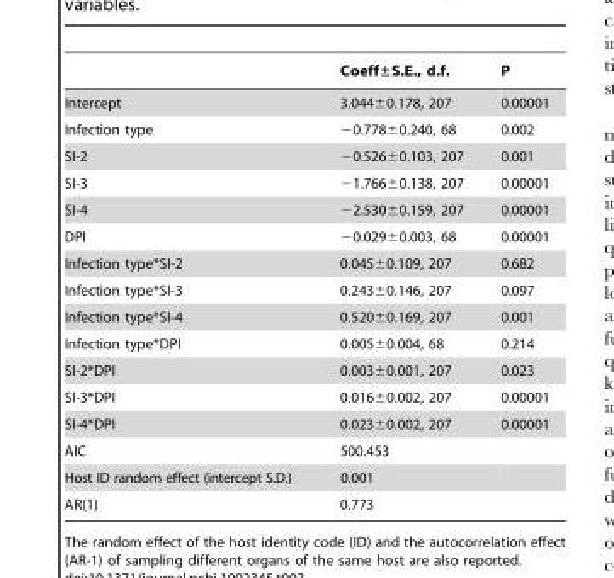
<table><thead><tr><td></td><td>Coeff±S.E., d.f.</td><td>P</td></tr></thead><tbody><tr><td>Intercept</td><td>3.044±0.178, 207</td><td>0.00001</td></tr><tr><td>Infection type</td><td>−0.778±0.240, 68</td><td>0.002</td></tr><tr><td>SI-2</td><td>−0.526±0.103, 207</td><td>0.001</td></tr><tr><td>SI-3</td><td>−1.766±0.138, 207</td><td>0.00001</td></tr><tr><td>SI-4</td><td>−2.530±0.159, 207</td><td>0.00001</td></tr><tr><td>DPI</td><td>−0.029±0.003, 68</td><td>0.00001</td></tr><tr><td>Infection type*SI-2</td><td>0.045±0.109, 207</td><td>0.682</td></tr><tr><td>Infection type*SI-3</td><td>0.243±0.146, 207</td><td>0.097</td></tr><tr><td>Infection type*SI-4</td><td>0.520±0.169, 207</td><td>0.001</td></tr><tr><td>Infection type*DPI</td><td>0.005±0.004, 68</td><td>0.214</td></tr><tr><td>SI-2*DPI</td><td>0.003±0.001, 207</td><td>0.023</td></tr><tr><td>SI-3*DPI</td><td>0.016±0.002, 207</td><td>0.00001</td></tr><tr><td>SI-4*DPI</td><td>0.023±0.002, 207</td><td>0.00001</td></tr><tr><td>AIC</td><td>500.453</td><td></td></tr><tr><td>Host ID random effect (intercept S.D.)</td><td>0.001</td><td></td></tr><tr><td>AR(1)</td><td>0.773</td><td></td></tr></tbody></table>